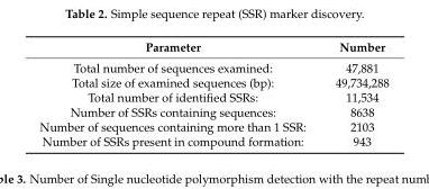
<table><thead><tr><td>Parameter</td><td>Number</td></tr></thead><tbody><tr><td>Total number of sequences examined:</td><td>47,881</td></tr><tr><td>Total size of examined sequences (bp):</td><td>49,734,288</td></tr><tr><td>Total number of identified SSRs:</td><td>11,534</td></tr><tr><td>Number of SSRs containing sequences:</td><td>8638</td></tr><tr><td>Number of sequences containing more than 1 SSR:</td><td>2103</td></tr><tr><td>Number of SSRs present in compound formation:</td><td>943</td></tr></tbody></table>